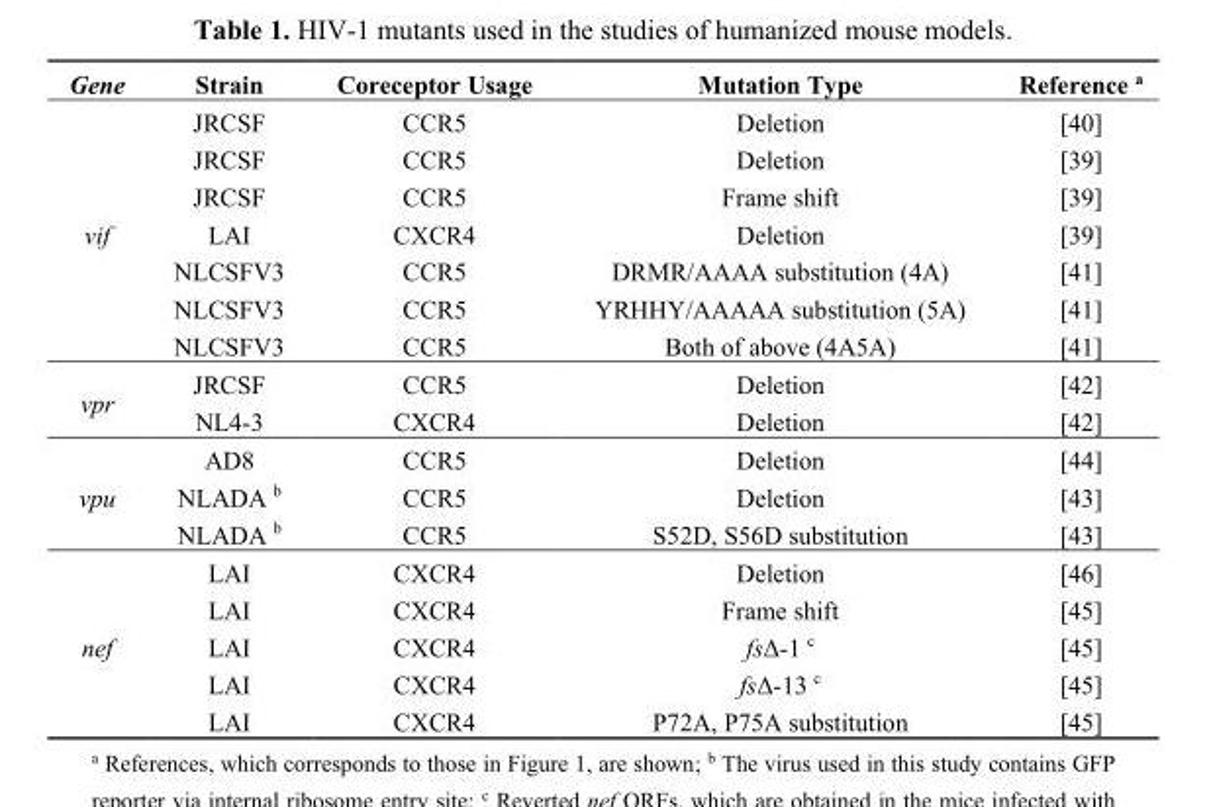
<table><thead><tr><td>Gene</td><td>Strain</td><td>Coreceptor Usage</td><td>Mutation Type</td><td>Reference <sup>a</sup></td></tr></thead><tbody><tr><td rowspan="7">vif</td><td>JRCSF</td><td>CCR5</td><td>Deletion</td><td>[40]</td></tr><tr><td>JRCSF</td><td>CCR5</td><td>Deletion</td><td>[39]</td></tr><tr><td>JRCSF</td><td>CCR5</td><td>Frame shift</td><td>[39]</td></tr><tr><td>LAI</td><td>CXCR4</td><td>Deletion</td><td>[39]</td></tr><tr><td>NLCSFV3</td><td>CCR5</td><td>DRMR/AAAA substitution (4A)</td><td>[41]</td></tr><tr><td>NLCSFV3</td><td>CCR5</td><td>YRHHY/AAAAA substitution (5A)</td><td>[41]</td></tr><tr><td>NLCSFV3</td><td>CCR5</td><td>Both of above (4A5A)</td><td>[41]</td></tr><tr><td rowspan="2">vpr</td><td>JRCSF</td><td>CCR5</td><td>Deletion</td><td>[42]</td></tr><tr><td>NL4-3</td><td>CXCR4</td><td>Deletion</td><td>[42]</td></tr><tr><td rowspan="3">vpu</td><td>AD8</td><td>CCR5</td><td>Deletion</td><td>[44]</td></tr><tr><td>NLADA <sup>b</sup></td><td>CCR5</td><td>Deletion</td><td>[43]</td></tr><tr><td>NLADA <sup>b</sup></td><td>CCR5</td><td>S52D, S56D substitution</td><td>[43]</td></tr><tr><td rowspan="5">nef</td><td>LAI</td><td>CXCR4</td><td>Deletion</td><td>[46]</td></tr><tr><td>LAI</td><td>CXCR4</td><td>Frame shift</td><td>[45]</td></tr><tr><td>LAI</td><td>CXCR4</td><td>fsΔ-1 <sup>c</sup></td><td>[45]</td></tr><tr><td>LAI</td><td>CXCR4</td><td>fsΔ-13 <sup>c</sup></td><td>[45]</td></tr><tr><td>LAI</td><td>CXCR4</td><td>P72A, P75A substitution</td><td>[45]</td></tr></tbody></table>